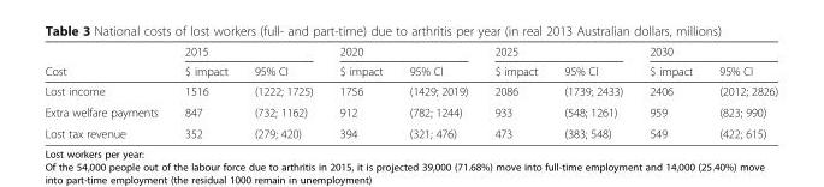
<table><thead><tr><td rowspan="2">Cost</td><td colspan="2">2015</td><td colspan="2">2020</td><td colspan="2">2025</td><td colspan="2">2030</td></tr><tr><td>$ impact</td><td>95% CI</td><td>$ impact</td><td>95% CI</td><td>$ impact</td><td>95% CI</td><td>$ impact</td><td>95% CI</td></tr></thead><tbody><tr><td>Lost income</td><td>1516</td><td>(1222; 1725)</td><td>1756</td><td>(1429; 2019)</td><td>2086</td><td>(1739; 2433)</td><td>2406</td><td>(2012; 2826)</td></tr><tr><td>Extra welfare payments</td><td>847</td><td>(732; 1162)</td><td>912</td><td>(782; 1244)</td><td>933</td><td>(548; 1261)</td><td>959</td><td>(823; 990)</td></tr><tr><td>Lost tax revenue</td><td>352</td><td>(279; 420)</td><td>394</td><td>(321; 476)</td><td>473</td><td>(383; 548)</td><td>549</td><td>(422; 615)</td></tr></tbody></table>